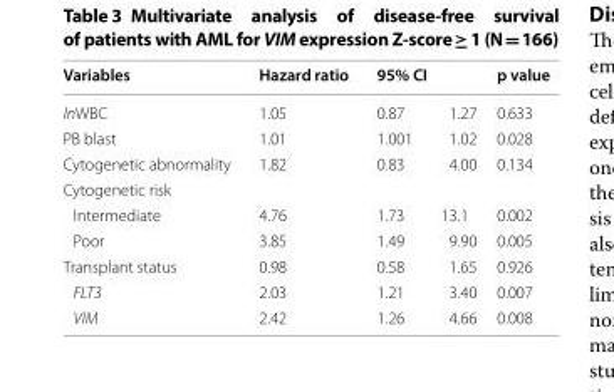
<table><thead><tr><td rowspan="2">Variables lnWBC</td><td rowspan="2">Hazard ratio 1.05</td><td colspan="2">95% CI</td><td rowspan="2">p value 0.633</td></tr><tr><td>0.87</td><td>1.27</td></tr></thead><tbody><tr><td>PB blast</td><td>1.01</td><td>1.001</td><td>1.02</td><td>0.028</td></tr><tr><td>Cytogenetic abnormality</td><td>1.82</td><td>0.83</td><td>4.00</td><td>0.134</td></tr><tr><td colspan="5">Cytogenetic risk</td></tr><tr><td>Intermediate</td><td>4.76</td><td>1.73</td><td>13.1</td><td>0.002</td></tr><tr><td>Poor</td><td>3.85</td><td>1.49</td><td>9.90</td><td>0.005</td></tr><tr><td>Transplant status</td><td>0.98</td><td>0.58</td><td>1.65</td><td>0.926</td></tr><tr><td>FLT3</td><td>2.03</td><td>1.21</td><td>3.40</td><td>0.007</td></tr><tr><td>VIM</td><td>2.42</td><td>1.26</td><td>4.66</td><td>0.008</td></tr></tbody></table>